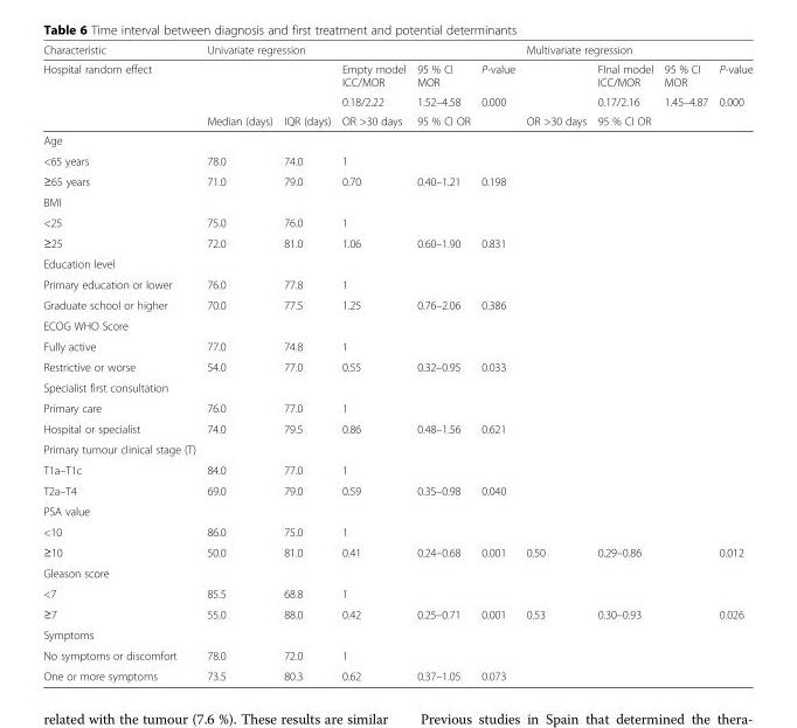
<table><thead><tr><td rowspan="4">Characteristic Hospital random effect</td><td colspan="5">Univariate regression</td><td colspan="4">Multivariate regression</td></tr><tr><td rowspan="3">Median (days)</td><td rowspan="3">IQR (days)</td><td rowspan="3">Empty model ICC/MOR 0.18/2.22 OR &gt;30 days</td><td rowspan="3">95 % CI MOR 1.52–4.58 95 % CI OR</td><td rowspan="3">P-value 0.000</td><td rowspan="3">OR &gt;30 days</td><td rowspan="3">FInal model ICC/MOR 0.17/2.16 95 % CI OR</td><td rowspan="3">95 % CI MOR 1.45–4.87</td><td rowspan="3">P-value 0.000</td></tr><tr></tr><tr></tr></thead><tbody><tr><td colspan="10">Age</td></tr><tr><td>&lt;65 years</td><td>78.0</td><td>74.0</td><td>1</td><td></td><td></td><td></td><td></td><td></td><td></td></tr><tr><td>≥65 years</td><td>71.0</td><td>79.0</td><td>0.70</td><td>0.40–1.21</td><td>0.198</td><td></td><td></td><td></td><td></td></tr><tr><td colspan="10">BMI</td></tr><tr><td>&lt;25</td><td>75.0</td><td>76.0</td><td>1</td><td></td><td></td><td></td><td></td><td></td><td></td></tr><tr><td>≥25</td><td>72.0</td><td>81.0</td><td>1.06</td><td>0.60–1.90</td><td>0.831</td><td></td><td></td><td></td><td></td></tr><tr><td colspan="10">Education level</td></tr><tr><td>Primary education or lower</td><td>76.0</td><td>77.8</td><td>1</td><td></td><td></td><td></td><td></td><td></td><td></td></tr><tr><td>Graduate school or higher</td><td>70.0</td><td>77.5</td><td>1.25</td><td>0.76–2.06</td><td>0.386</td><td></td><td></td><td></td><td></td></tr><tr><td colspan="10">ECOG WHO Score</td></tr><tr><td>Fully active</td><td>77.0</td><td>74.8</td><td>1</td><td></td><td></td><td></td><td></td><td></td><td></td></tr><tr><td>Restrictive or worse</td><td>54.0</td><td>77.0</td><td>0.55</td><td>0.32–0.95</td><td>0.033</td><td></td><td></td><td></td><td></td></tr><tr><td colspan="10">Specialist first consultation</td></tr><tr><td>Primary care</td><td>76.0</td><td>77.0</td><td>1</td><td></td><td></td><td></td><td></td><td></td><td></td></tr><tr><td>Hospital or specialist</td><td>74.0</td><td>79.5</td><td>0.86</td><td>0.48–1.56</td><td>0.621</td><td></td><td></td><td></td><td></td></tr><tr><td colspan="10">Primary tumour clinical stage (T)</td></tr><tr><td>T1a–T1c</td><td>84.0</td><td>77.0</td><td>1</td><td></td><td></td><td></td><td></td><td></td><td></td></tr><tr><td>T2a–T4</td><td>69.0</td><td>79.0</td><td>0.59</td><td>0.35–0.98</td><td>0.040</td><td></td><td></td><td></td><td></td></tr><tr><td colspan="10">PSA value</td></tr><tr><td>&lt;10</td><td>86.0</td><td>75.0</td><td>1</td><td></td><td></td><td></td><td></td><td></td><td></td></tr><tr><td>≥10</td><td>50.0</td><td>81.0</td><td>0.41</td><td>0.24–0.68</td><td>0.001</td><td>0.50</td><td>0.29–0.86</td><td></td><td>0.012</td></tr><tr><td colspan="10">Gleason score</td></tr><tr><td>&lt;7</td><td>85.5</td><td>68.8</td><td>1</td><td></td><td></td><td></td><td></td><td></td><td></td></tr><tr><td>≥7</td><td>55.0</td><td>88.0</td><td>0.42</td><td>0.25–0.71</td><td>0.001</td><td>0.53</td><td>0.30–0.93</td><td></td><td>0.026</td></tr><tr><td colspan="10">Symptoms</td></tr><tr><td>No symptoms or discomfort</td><td>78.0</td><td>72.0</td><td>1</td><td></td><td></td><td></td><td></td><td></td><td></td></tr><tr><td>One or more symptoms</td><td>73.5</td><td>80.3</td><td>0.62</td><td>0.37–1.05</td><td>0.073</td><td></td><td></td><td></td><td></td></tr></tbody></table>